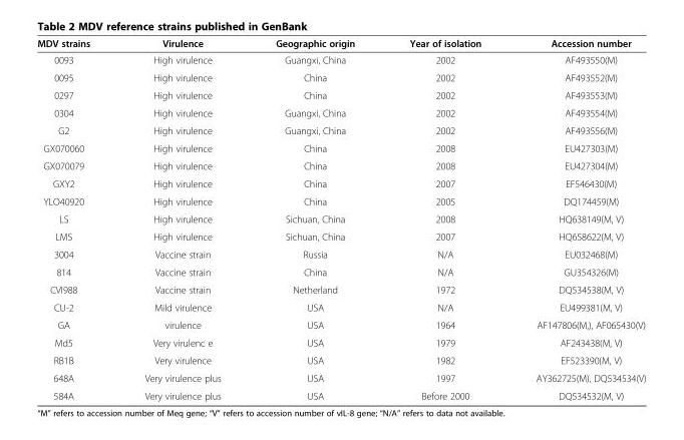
<table><thead><tr><td>MDV strains</td><td>Virulence</td><td>Geographic origin</td><td>Year of isolation</td><td>Accession number</td></tr></thead><tbody><tr><td>0093</td><td>High virulence</td><td>Guangxi, China</td><td>2002</td><td>AF493550(M)</td></tr><tr><td>0095</td><td>High virulence</td><td>China</td><td>2002</td><td>AF493552(M)</td></tr><tr><td>0297</td><td>High virulence</td><td>China</td><td>2002</td><td>AF493553(M)</td></tr><tr><td>0304</td><td>High virulence</td><td>Guangxi, China</td><td>2002</td><td>AF493554(M)</td></tr><tr><td>G2</td><td>High virulence</td><td>Guangxi, China</td><td>2002</td><td>AF493556(M)</td></tr><tr><td>GX070060</td><td>High virulence</td><td>China</td><td>2008</td><td>EU427303(M)</td></tr><tr><td>GX070079</td><td>High virulence</td><td>China</td><td>2008</td><td>EU427304(M)</td></tr><tr><td>GXY2</td><td>High virulence</td><td>China</td><td>2007</td><td>EF546430(M)</td></tr><tr><td>YLO40920</td><td>High virulence</td><td>China</td><td>2005</td><td>DQ174459(M)</td></tr><tr><td>LS</td><td>High virulence</td><td>Sichuan, China</td><td>2008</td><td>HQ638149(M, V)</td></tr><tr><td>LMS</td><td>High virulence</td><td>Sichuan, China</td><td>2007</td><td>HQ658622(M, V)</td></tr><tr><td>3004</td><td>Vaccine strain</td><td>Russia</td><td>N/A</td><td>EU032468(M)</td></tr><tr><td>814</td><td>Vaccine strain</td><td>China</td><td>N/A</td><td>GU354326(M)</td></tr><tr><td>CVI988</td><td>Vaccine strain</td><td>Netherland</td><td>1972</td><td>DQ534538(M, V)</td></tr><tr><td>CU-2</td><td>Mild virulence</td><td>USA</td><td>N/A</td><td>EU499381(M, V)</td></tr><tr><td>GA</td><td>virulence</td><td>USA</td><td>1964</td><td>AF147806(M,), AF065430(V)</td></tr><tr><td>Md5</td><td>Very virulenc e</td><td>USA</td><td>1979</td><td>AF243438(M, V)</td></tr><tr><td>RB1B</td><td>Very virulence</td><td>USA</td><td>1982</td><td>EF523390(M, V)</td></tr><tr><td>648A</td><td>Very virulence plus</td><td>USA</td><td>1997</td><td>AY362725(M), DQ534534(V)</td></tr><tr><td>584A</td><td>Very virulence plus</td><td>USA</td><td>Before 2000</td><td>DQ534532(M, V)</td></tr></tbody></table>